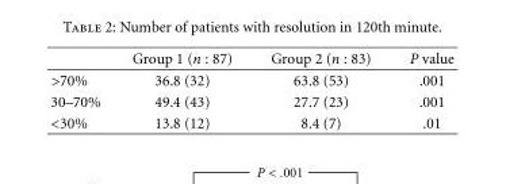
<table><thead><tr><td></td><td>Group 1 (n : 87)</td><td>Group 2 (n : 83)</td><td>P value</td></tr></thead><tbody><tr><td>&gt;70%</td><td>36.8 (32)</td><td>63.8 (53)</td><td>.001</td></tr><tr><td>30–70%</td><td>49.4 (43)</td><td>27.7 (23)</td><td>.001</td></tr><tr><td>&lt;30%</td><td>13.8 (12)</td><td>8.4 (7)</td><td>.01</td></tr></tbody></table>